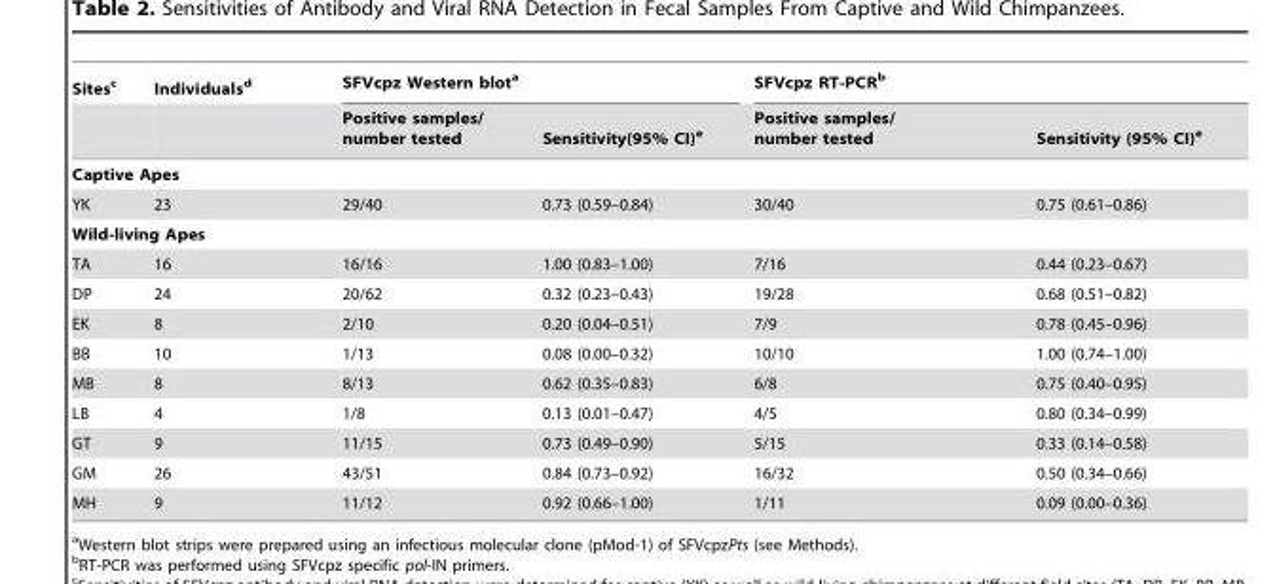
<table><thead><tr><td rowspan="2">Sites<sup>c</sup></td><td rowspan="2">Individuals<sup>d</sup></td><td colspan="2">SFVcpz Western blot<sup>a</sup></td><td colspan="2">SFVcpz RT-PCR<sup>b</sup></td></tr><tr><td>Positive samples/ number tested</td><td>Sensitivity(95% CI)<sup>e</sup></td><td>Positive samples/ number tested</td><td>Sensitivity (95% CI)<sup>e</sup></td></tr></thead><tbody><tr><td colspan="6">Captive Apes</td></tr><tr><td>YK</td><td>23</td><td>29/40</td><td>0.73 (0.59–0.84)</td><td>30/40</td><td>0.75 (0.61–0.86)</td></tr><tr><td colspan="6">Wild-living Apes</td></tr><tr><td>TA</td><td>16</td><td>16/16</td><td>1.00 (0.83–1.00)</td><td>7/16</td><td>0.44 (0.23–0.67)</td></tr><tr><td>DP</td><td>24</td><td>20/62</td><td>0.32 (0.23–0.43)</td><td>19/28</td><td>0.68 (0.51–0.82)</td></tr><tr><td>EK</td><td>8</td><td>2/10</td><td>0.20 (0.04–0.51)</td><td>7/9</td><td>0.78 (0.45–0.96)</td></tr><tr><td>BB</td><td>10</td><td>1/13</td><td>0.08 (0.00–0.32)</td><td>10/10</td><td>1.00 (0.74–1.00)</td></tr><tr><td>MB</td><td>8</td><td>8/13</td><td>0.62 (0.35–0.83)</td><td>6/8</td><td>0.75 (0.40–0.95)</td></tr><tr><td>LB</td><td>4</td><td>1/8</td><td>0.13 (0.01–0.47)</td><td>4/5</td><td>0.80 (0.34–0.99)</td></tr><tr><td>GT</td><td>9</td><td>11/15</td><td>0.73 (0.49–0.90)</td><td>5/15</td><td>0.33 (0.14–0.58)</td></tr><tr><td>GM</td><td>26</td><td>43/51</td><td>0.84 (0.73–0.92)</td><td>16/32</td><td>0.50 (0.34–0.66)</td></tr><tr><td>MH</td><td>9</td><td>11/12</td><td>0.92 (0.66–1.00)</td><td>1/11</td><td>0.09 (0.00–0.36)</td></tr></tbody></table>